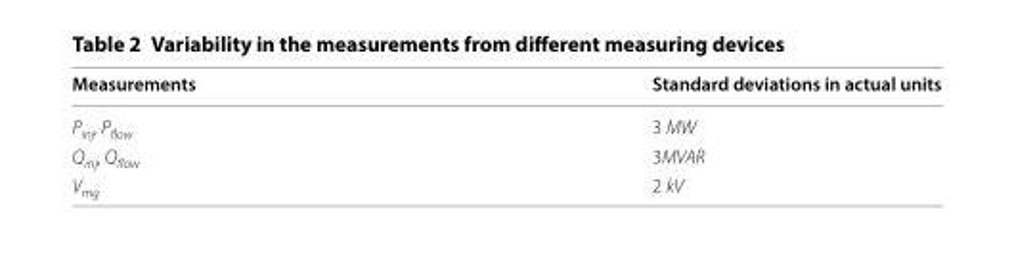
<table><thead><tr><td>Measurements</td><td>Standard deviations in actual units</td></tr></thead><tbody><tr><td>P<sub>inj</sub>, P<sub>flow</sub></td><td>3 MW</td></tr><tr><td>Q<sub>inj</sub>, Q<sub>flow</sub></td><td>3MVAR</td></tr><tr><td>V<sub>mg</sub></td><td>2 kV</td></tr></tbody></table>